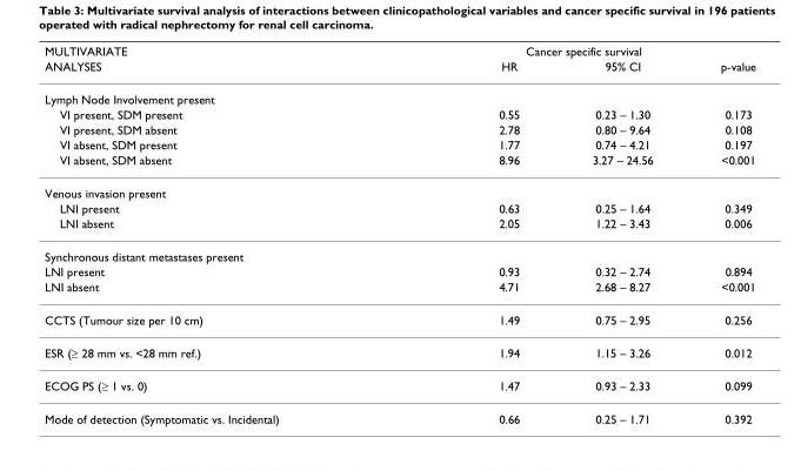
<table><thead><tr><td rowspan="2">MULTIVARIATE ANALYSES</td><td colspan="2">Cancer specific survival</td><td rowspan="2">p-value</td></tr><tr><td>HR</td><td>95% CI</td></tr></thead><tbody><tr><td colspan="4">Lymph Node Involvement present</td></tr><tr><td>VI present, SDM present</td><td>0.55</td><td>0.23 – 1.30</td><td>0.173</td></tr><tr><td>VI present, SDM absent</td><td>2.78</td><td>0.80 – 9.64</td><td>0.108</td></tr><tr><td>VI absent, SDM present</td><td>1.77</td><td>0.74 – 4.21</td><td>0.197</td></tr><tr><td>VI absent, SDM absent</td><td>8.96</td><td>3.27 – 24.56</td><td>&lt;0.001</td></tr><tr><td colspan="4">Venous invasion present</td></tr><tr><td>LNI present</td><td>0.63</td><td>0.25 – 1.64</td><td>0.349</td></tr><tr><td>LNI absent</td><td>2.05</td><td>1.22 – 3.43</td><td>0.006</td></tr><tr><td colspan="4">Synchronous distant metastases present</td></tr><tr><td>LNI present</td><td>0.93</td><td>0.32 – 2.74</td><td>0.894</td></tr><tr><td>LNI absent</td><td>4.71</td><td>2.68 – 8.27</td><td>&lt;0.001</td></tr><tr><td>CCTS (Tumour size per 10 cm)</td><td>1.49</td><td>0.75 – 2.95</td><td>0.256</td></tr><tr><td>ESR (≥ 28 mm vs. &lt;28 mm ref.)</td><td>1.94</td><td>1.15 – 3.26</td><td>0.012</td></tr><tr><td>ECOG PS (≥ 1 vs. 0)</td><td>1.47</td><td>0.93 – 2.33</td><td>0.099</td></tr><tr><td>Mode of detection (Symptomatic vs. Incidental)</td><td>0.66</td><td>0.25 – 1.71</td><td>0.392</td></tr></tbody></table>